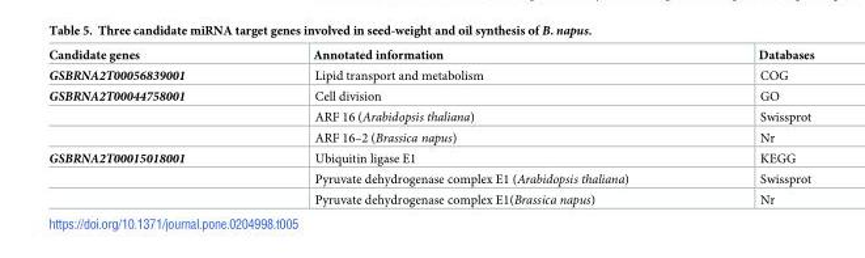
<table><thead><tr><td>Candidate genes</td><td>Annotated information</td><td>Databases</td></tr></thead><tbody><tr><td>GSBRNA2T00056839001</td><td>Lipid transport and metabolism</td><td>COG</td></tr><tr><td rowspan="3">GSBRNA2T00044758001</td><td>Cell division</td><td>GO</td></tr><tr><td>ARF 16 (Arabidopsis thaliana)</td><td>Swissprot</td></tr><tr><td>ARF 16–2 (Brassica napus)</td><td>Nr</td></tr><tr><td rowspan="3">GSBRNA2T00015018001</td><td>Ubiquitin ligase E1</td><td>KEGG</td></tr><tr><td>Pyruvate dehydrogenase complex E1 (Arabidopsis thaliana)</td><td>Swissprot</td></tr><tr><td>Pyruvate dehydrogenase complex E1(Brassica napus)</td><td>Nr</td></tr></tbody></table>